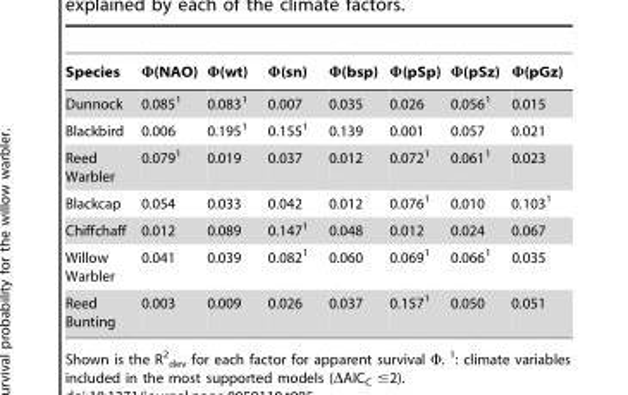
<table><thead><tr><td>Species</td><td>Φ(NAO)</td><td>Φ(wt)</td><td>Φ(sn)</td><td>Φ(bsp)</td><td>Φ(pSp)</td><td>Φ(pSz)</td><td>Φ(pGz)</td></tr></thead><tbody><tr><td>Dunnock</td><td>0.085<sup>1</sup></td><td>0.083<sup>1</sup></td><td>0.007</td><td>0.035</td><td>0.026</td><td>0.056<sup>1</sup></td><td>0.015</td></tr><tr><td>Blackbird</td><td>0.006</td><td>0.195<sup>1</sup></td><td>0.155<sup>1</sup></td><td>0.139</td><td>0.001</td><td>0.057</td><td>0.021</td></tr><tr><td>Reed Warbler</td><td>0.079<sup>1</sup></td><td>0.019</td><td>0.037</td><td>0.012</td><td>0.072<sup>1</sup></td><td>0.061<sup>1</sup></td><td>0.023</td></tr><tr><td>Blackcap</td><td>0.054</td><td>0.033</td><td>0.042</td><td>0.012</td><td>0.076<sup>1</sup></td><td>0.010</td><td>0.103<sup>1</sup></td></tr><tr><td>Chiffchaff</td><td>0.012</td><td>0.089</td><td>0.147<sup>1</sup></td><td>0.048</td><td>0.012</td><td>0.024</td><td>0.067</td></tr><tr><td>Willow Warbler</td><td>0.041</td><td>0.039</td><td>0.082<sup>1</sup></td><td>0.060</td><td>0.069<sup>1</sup></td><td>0.066<sup>1</sup></td><td>0.035</td></tr><tr><td>Reed Bunting</td><td>0.003</td><td>0.009</td><td>0.026</td><td>0.037</td><td>0.157<sup>1</sup></td><td>0.050</td><td>0.051</td></tr></tbody></table>